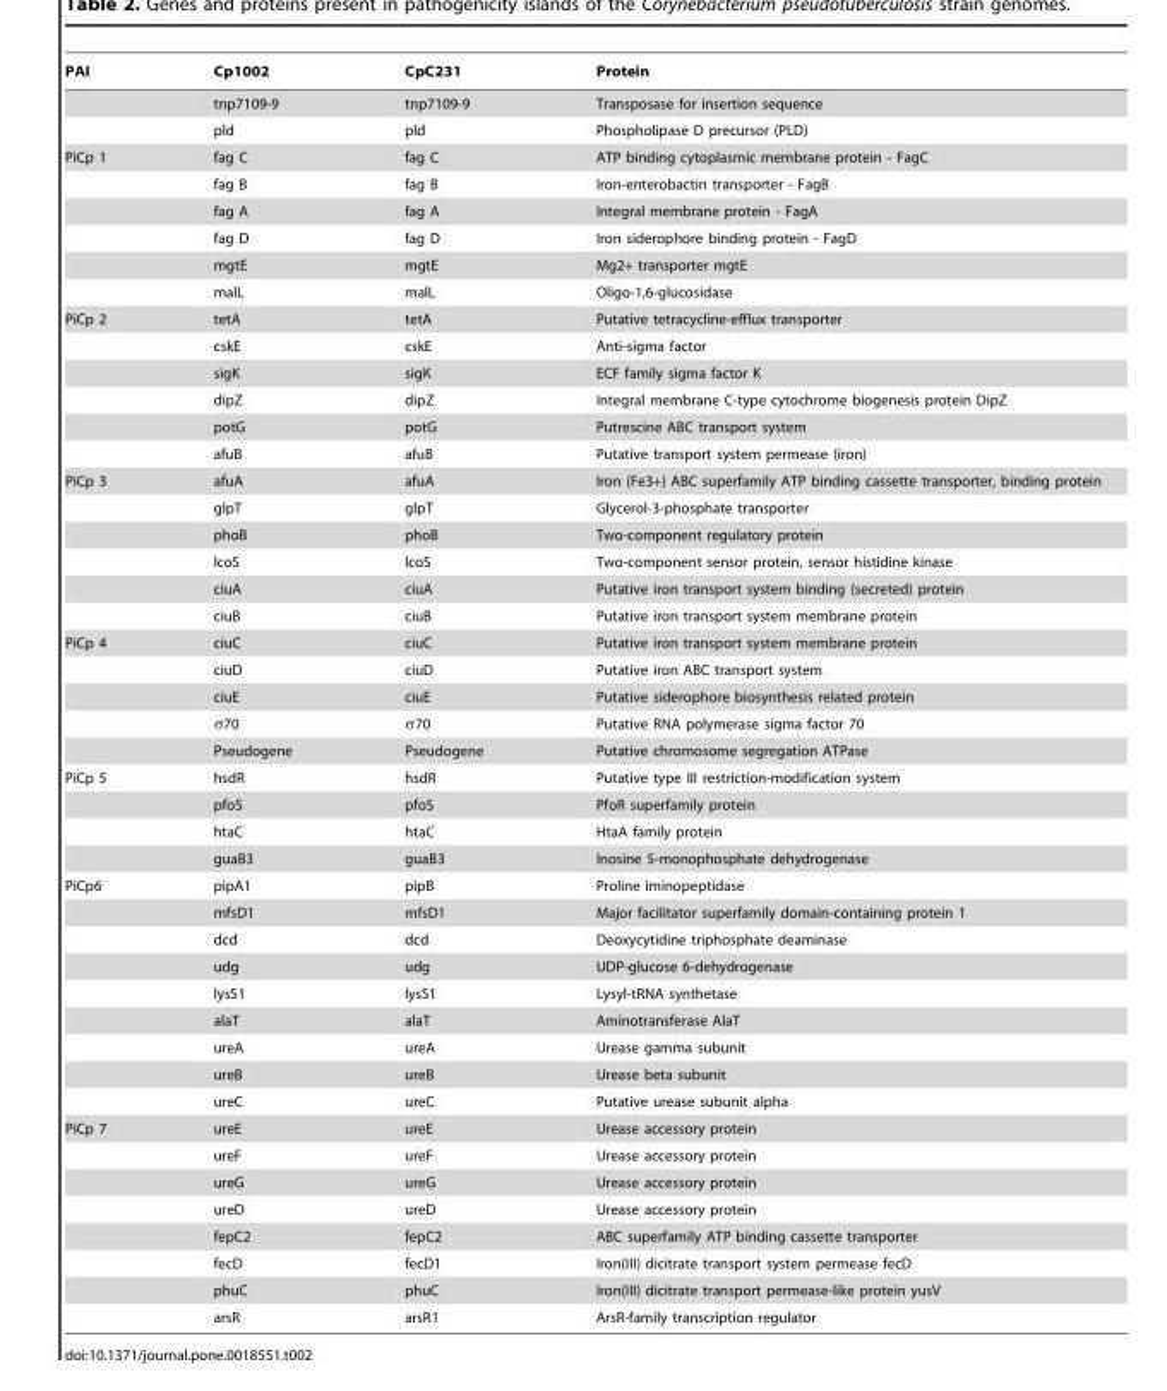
<table><thead><tr><td>PAI</td><td>Cp1002</td><td>CpC231</td><td>Protein</td></tr></thead><tbody><tr><td></td><td>tnp7109-9</td><td>tnp7109-9</td><td>Transposase for insertion sequence</td></tr><tr><td></td><td>pld</td><td>pld</td><td>Phospholipase D precursor (PLD)</td></tr><tr><td rowspan="6">PiCp 1</td><td>fag C</td><td>fag C</td><td>ATP binding cytoplasmic membrane protein - FagC</td></tr><tr><td>fag B</td><td>fag B</td><td>Iron-enterobactin transporter - FagB</td></tr><tr><td>fag A</td><td>fag A</td><td>Integral membrane protein - FagA</td></tr><tr><td>fag D</td><td>fag D</td><td>Iron siderophore binding protein - FagD</td></tr><tr><td>mgtE</td><td>mgtE</td><td>Mg2+ transporter mgtE</td></tr><tr><td>malL</td><td>malL</td><td>Oligo-1,6-glucosidase</td></tr><tr><td rowspan="6">PiCp 2</td><td>tetA</td><td>tetA</td><td>Putative tetracycline-efflux transporter</td></tr><tr><td>cskE</td><td>cskE</td><td>Anti-sigma factor</td></tr><tr><td>sigK</td><td>sigK</td><td>ECF family sigma factor K</td></tr><tr><td>dipZ</td><td>dipZ</td><td>Integral membrane C-type cytochrome biogenesis protein DipZ</td></tr><tr><td>potG</td><td>potG</td><td>Putrescine ABC transport system</td></tr><tr><td>afuB</td><td>afuB</td><td>Putative transport system permease (iron)</td></tr><tr><td rowspan="6">PiCp 3</td><td>afuA</td><td>afuA</td><td>Iron (Fe3+) ABC superfamily ATP binding cassette transporter, binding protein</td></tr><tr><td>glpT</td><td>glpT</td><td>Glycerol-3-phosphate transporter</td></tr><tr><td>phoB</td><td>phoB</td><td>Two-component regulatory protein</td></tr><tr><td>lcoS</td><td>lcoS</td><td>Two-component sensor protein, sensor histidine kinase</td></tr><tr><td>ciuA</td><td>ciuA</td><td>Putative iron transport system binding (secreted) protein</td></tr><tr><td>ciuB</td><td>ciuB</td><td>Putative iron transport system membrane protein</td></tr><tr><td rowspan="5">PiCp 4</td><td>ciuC</td><td>ciuC</td><td>Putative iron transport system membrane protein</td></tr><tr><td>ciuD</td><td>ciuD</td><td>Putative iron ABC transport system</td></tr><tr><td>ciuE</td><td>ciuE</td><td>Putative siderophore biosynthesis related protein</td></tr><tr><td>σ70</td><td>σ70</td><td>Putative RNA polymerase sigma factor 70</td></tr><tr><td>Pseudogene</td><td>Pseudogene</td><td>Putative chromosome segregation ATPase</td></tr><tr><td rowspan="4">PiCp 5</td><td>hsdR</td><td>hsdR</td><td>Putative type III restriction-modification system</td></tr><tr><td>pfoS</td><td>pfoS</td><td>PfoR superfamily protein</td></tr><tr><td>htaC</td><td>htaC</td><td>HtaA family protein</td></tr><tr><td>guaB3</td><td>guaB3</td><td>Inosine 5-monophosphate dehydrogenase</td></tr><tr><td rowspan="9">PiCp6</td><td>pipA1</td><td>pipB</td><td>Proline iminopeptidase</td></tr><tr><td>mfsD1</td><td>mfsD1</td><td>Major facilitator superfamily domain-containing protein 1</td></tr><tr><td>dcd</td><td>dcd</td><td>Deoxycytidine triphosphate deaminase</td></tr><tr><td>udg</td><td>udg</td><td>UDP-glucose 6-dehydrogenase</td></tr><tr><td>lysS1</td><td>lysS1</td><td>Lysyl-tRNA synthetase</td></tr><tr><td>alaT</td><td>alaT</td><td>Aminotransferase AlaT</td></tr><tr><td>ureA</td><td>ureA</td><td>Urease gamma subunit</td></tr><tr><td>ureB</td><td>ureB</td><td>Urease beta subunit</td></tr><tr><td>ureC</td><td>ureC</td><td>Putative urease subunit alpha</td></tr><tr><td rowspan="8">PiCp 7</td><td>ureE</td><td>ureE</td><td>Urease accessory protein</td></tr><tr><td>ureF</td><td>ureF</td><td>Urease accessory protein</td></tr><tr><td>ureG</td><td>ureG</td><td>Urease accessory protein</td></tr><tr><td>ureD</td><td>ureD</td><td>Urease accessory protein</td></tr><tr><td>fepC2</td><td>fepC2</td><td>ABC superfamily ATP binding cassette transporter</td></tr><tr><td>fecD</td><td>fecD1</td><td>Iron(III) dicitrate transport system permease fecD</td></tr><tr><td>phuC</td><td>phuC</td><td>Iron(III) dicitrate transport permease-like protein yusV</td></tr><tr><td>arsR</td><td>arsR1</td><td>ArsR-family transcription regulator</td></tr></tbody></table>